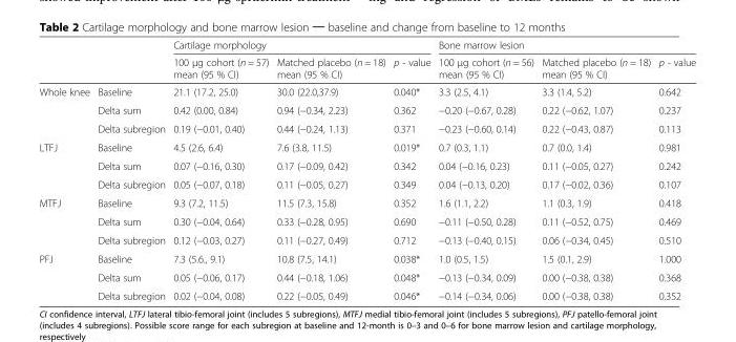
<table><thead><tr><td rowspan="2"></td><td rowspan="2"></td><td colspan="3">Cartilage morphology</td><td colspan="3">Bone marrow lesion</td></tr><tr><td>100 μg cohort (n = 57) mean (95 % CI)</td><td>Matched placebo (n = 18) mean (95 % CI)</td><td>p - value</td><td>100 μg cohort (n = 56) mean (95 % CI)</td><td>Matched placebo (n = 18) mean (95 % CI)</td><td>p - value</td></tr></thead><tbody><tr><td rowspan="3">Whole knee</td><td>Baseline</td><td>21.1 (17.2, 25.0)</td><td>30.0 (22.0,37.9)</td><td>0.040*</td><td>3.3 (2.5, 4.1)</td><td>3.3 (1.4, 5.2)</td><td>0.642</td></tr><tr><td>Delta sum</td><td>0.42 (0.00, 0.84)</td><td>0.94 (−0.34, 2.23)</td><td>0.362</td><td>−0.20 (−0.67, 0.28)</td><td>0.22 (−0.62, 1.07)</td><td>0.237</td></tr><tr><td>Delta subregion</td><td>0.19 (−0.01, 0.40)</td><td>0.44 (−0.24, 1.13)</td><td>0.371</td><td>−0.23 (−0.60, 0.14)</td><td>0.22 (−0.43, 0.87)</td><td>0.113</td></tr><tr><td rowspan="3">LTFJ</td><td>Baseline</td><td>4.5 (2.6, 6.4)</td><td>7.6 (3.8, 11.5)</td><td>0.019*</td><td>0.7 (0.3, 1.1)</td><td>0.7 (0.0, 1.4)</td><td>0.981</td></tr><tr><td>Delta sum</td><td>0.07 (−0.16, 0.30)</td><td>0.17 (−0.09, 0.42)</td><td>0.342</td><td>0.04 (−0.16, 0.23)</td><td>0.11 (−0.05, 0.27)</td><td>0.242</td></tr><tr><td>Delta subregion</td><td>0.05 (−0.07, 0.18)</td><td>0.11 (−0.05, 0.27)</td><td>0.349</td><td>0.04 (−0.13, 0.20)</td><td>0.17 (−0.02, 0.36)</td><td>0.107</td></tr><tr><td rowspan="3">MTFJ</td><td>Baseline</td><td>9.3 (7.2, 11.5)</td><td>11.5 (7.3, 15.8)</td><td>0.352</td><td>1.6 (1.1, 2.2)</td><td>1.1 (0.3, 1.9)</td><td>0.418</td></tr><tr><td>Delta sum</td><td>0.30 (−0.04, 0.64)</td><td>0.33 (−0.28, 0.95)</td><td>0.690</td><td>−0.11 (−0.50, 0.28)</td><td>0.11 (−0.52, 0.75)</td><td>0.469</td></tr><tr><td>Delta subregion</td><td>0.12 (−0.03, 0.27)</td><td>0.11 (−0.27, 0.49)</td><td>0.712</td><td>−0.13 (−0.40, 0.15)</td><td>0.06 (−0.34, 0.45)</td><td>0.510</td></tr><tr><td rowspan="3">PFJ</td><td>Baseline</td><td>7.3 (5.6., 9.1)</td><td>10.8 (7.5, 14.1)</td><td>0.038*</td><td>1.0 (0.5, 1.5)</td><td>1.5 (0.1, 2.9)</td><td>1.000</td></tr><tr><td>Delta sum</td><td>0.05 (−0.06, 0.17)</td><td>0.44 (−0.18, 1.06)</td><td>0.048*</td><td>−0.13 (−0.34, 0.09)</td><td>0.00 (−0.38, 0.38)</td><td>0.368</td></tr><tr><td>Delta subregion</td><td>0.02 (−0.04, 0.08)</td><td>0.22 (−0.05, 0.49)</td><td>0.046*</td><td>−0.14 (−0.34, 0.06)</td><td>0.00 (−0.38, 0.38)</td><td>0.352</td></tr></tbody></table>